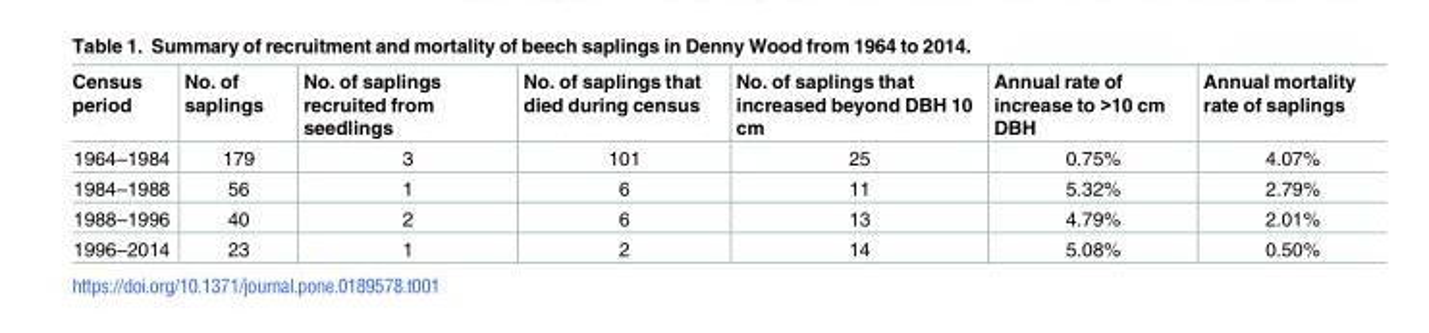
<table><thead><tr><td>Census period</td><td>No. of saplings</td><td>No. of saplings recruited from seedlings</td><td>No. of saplings that died during census</td><td>No. of saplings that increased beyond DBH 10 cm</td><td>Annual rate of increase to &gt;10 cm DBH</td><td>Annual mortality rate of saplings</td></tr></thead><tbody><tr><td>1964–1984</td><td>179</td><td>3</td><td>101</td><td>25</td><td>0.75%</td><td>4.07%</td></tr><tr><td>1984–1988</td><td>56</td><td>1</td><td>6</td><td>11</td><td>5.32%</td><td>2.79%</td></tr><tr><td>1988–1996</td><td>40</td><td>2</td><td>6</td><td>13</td><td>4.79%</td><td>2.01%</td></tr><tr><td>1996–2014</td><td>23</td><td>1</td><td>2</td><td>14</td><td>5.08%</td><td>0.50%</td></tr></tbody></table>